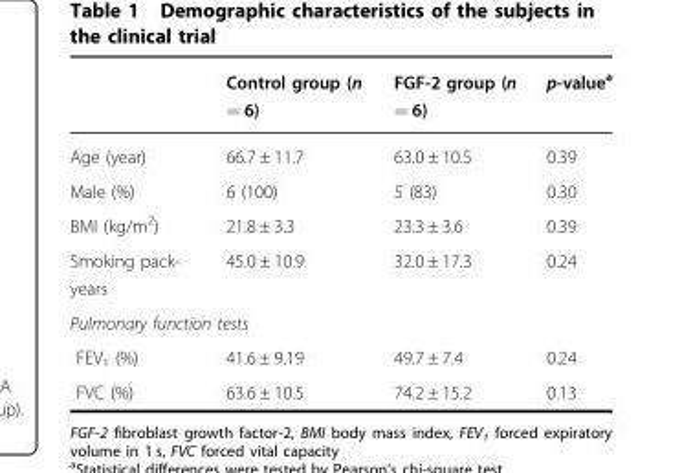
<table><thead><tr><td></td><td>Control group (n = 6)</td><td>FGF-2 group (n = 6)</td><td>p-value<sup>a</sup></td></tr></thead><tbody><tr><td>Age (year)</td><td>66.7 ± 11.7</td><td>63.0 ± 10.5</td><td>0.39</td></tr><tr><td>Male (%)</td><td>6 (100)</td><td>5 (83)</td><td>0.30</td></tr><tr><td>BMI (kg/m<sup>2</sup>)</td><td>21.8 ± 3.3</td><td>23.3 ± 3.6</td><td>0.39</td></tr><tr><td>Smoking pack- years</td><td>45.0 ± 10.9</td><td>32.0 ± 17.3</td><td>0.24</td></tr><tr><td colspan="4">Pulmonary function tests</td></tr><tr><td>FEV<sub>1</sub> (%)</td><td>41.6 ± 9.19</td><td>49.7 ± 7.4</td><td>0.24</td></tr><tr><td>FVC (%)</td><td>63.6 ± 10.5</td><td>74.2 ± 15.2</td><td>0.13</td></tr></tbody></table>